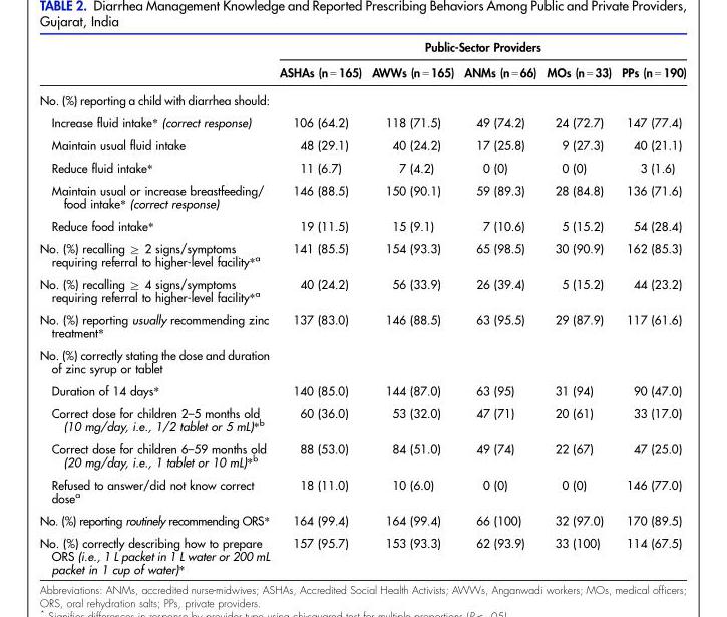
<table><thead><tr><td rowspan="2"></td><td colspan="5">Public-Sector Providers</td></tr><tr><td>ASHAs (n = 165)</td><td>AWWs (n = 165)</td><td>ANMs (n = 66)</td><td>MOs (n = 33)</td><td>PPs (n = 190)</td></tr></thead><tbody><tr><td colspan="6">No. (%) reporting a child with diarrhea should:</td></tr><tr><td>Increase fluid intake* (correct response)</td><td>106 (64.2)</td><td>118 (71.5)</td><td>49 (74.2)</td><td>24 (72.7)</td><td>147 (77.4)</td></tr><tr><td>Maintain usual fluid intake</td><td>48 (29.1)</td><td>40 (24.2)</td><td>17 (25.8)</td><td>9 (27.3)</td><td>40 (21.1)</td></tr><tr><td>Reduce fluid intake*</td><td>11 (6.7)</td><td>7 (4.2)</td><td>0 (0)</td><td>0 (0)</td><td>3 (1.6)</td></tr><tr><td>Maintain usual or increase breastfeeding/ food intake* (correct response)</td><td>146 (88.5)</td><td>150 (90.1)</td><td>59 (89.3)</td><td>28 (84.8)</td><td>136 (71.6)</td></tr><tr><td>Reduce food intake*</td><td>19 (11.5)</td><td>15 (9.1)</td><td>7 (10.6)</td><td>5 (15.2)</td><td>54 (28.4)</td></tr><tr><td>No. (%) recalling ≥ 2 signs/symptoms requiring referral to higher-level facility*<sup>a</sup></td><td>141 (85.5)</td><td>154 (93.3)</td><td>65 (98.5)</td><td>30 (90.9)</td><td>162 (85.3)</td></tr><tr><td>No. (%) recalling ≥ 4 signs/symptoms requiring referral to higher-level facility*<sup>a</sup></td><td>40 (24.2)</td><td>56 (33.9)</td><td>26 (39.4)</td><td>5 (15.2)</td><td>44 (23.2)</td></tr><tr><td>No. (%) reporting usually recommending zinc treatment*</td><td>137 (83.0)</td><td>146 (88.5)</td><td>63 (95.5)</td><td>29 (87.9)</td><td>117 (61.6)</td></tr><tr><td colspan="6">No. (%) correctly stating the dose and duration of zinc syrup or tablet</td></tr><tr><td>Duration of 14 days*</td><td>140 (85.0)</td><td>144 (87.0)</td><td>63 (95)</td><td>31 (94)</td><td>90 (47.0)</td></tr><tr><td>Correct dose for children 2–5 months old (10 mg/day, i.e., 1/2 tablet or 5 mL)*<sup>b</sup></td><td>60 (36.0)</td><td>53 (32.0)</td><td>47 (71)</td><td>20 (61)</td><td>33 (17.0)</td></tr><tr><td>Correct dose for children 6–59 months old (20 mg/day, i.e., 1 tablet or 10 mL)*<sup>b</sup></td><td>88 (53.0)</td><td>84 (51.0)</td><td>49 (74)</td><td>22 (67)</td><td>47 (25.0)</td></tr><tr><td>Refused to answer/did not know correct dose<sup>a</sup></td><td>18 (11.0)</td><td>10 (6.0)</td><td>0 (0)</td><td>0 (0)</td><td>146 (77.0)</td></tr><tr><td>No. (%) reporting routinely recommending ORS*</td><td>164 (99.4)</td><td>164 (99.4)</td><td>66 (100)</td><td>32 (97.0)</td><td>170 (89.5)</td></tr><tr><td>No. (%) correctly describing how to prepare ORS (i.e., 1 L packet in 1 L water or 200 mL packet in 1 cup of water)*</td><td>157 (95.7)</td><td>153 (93.3)</td><td>62 (93.9)</td><td>33 (100)</td><td>114 (67.5)</td></tr></tbody></table>